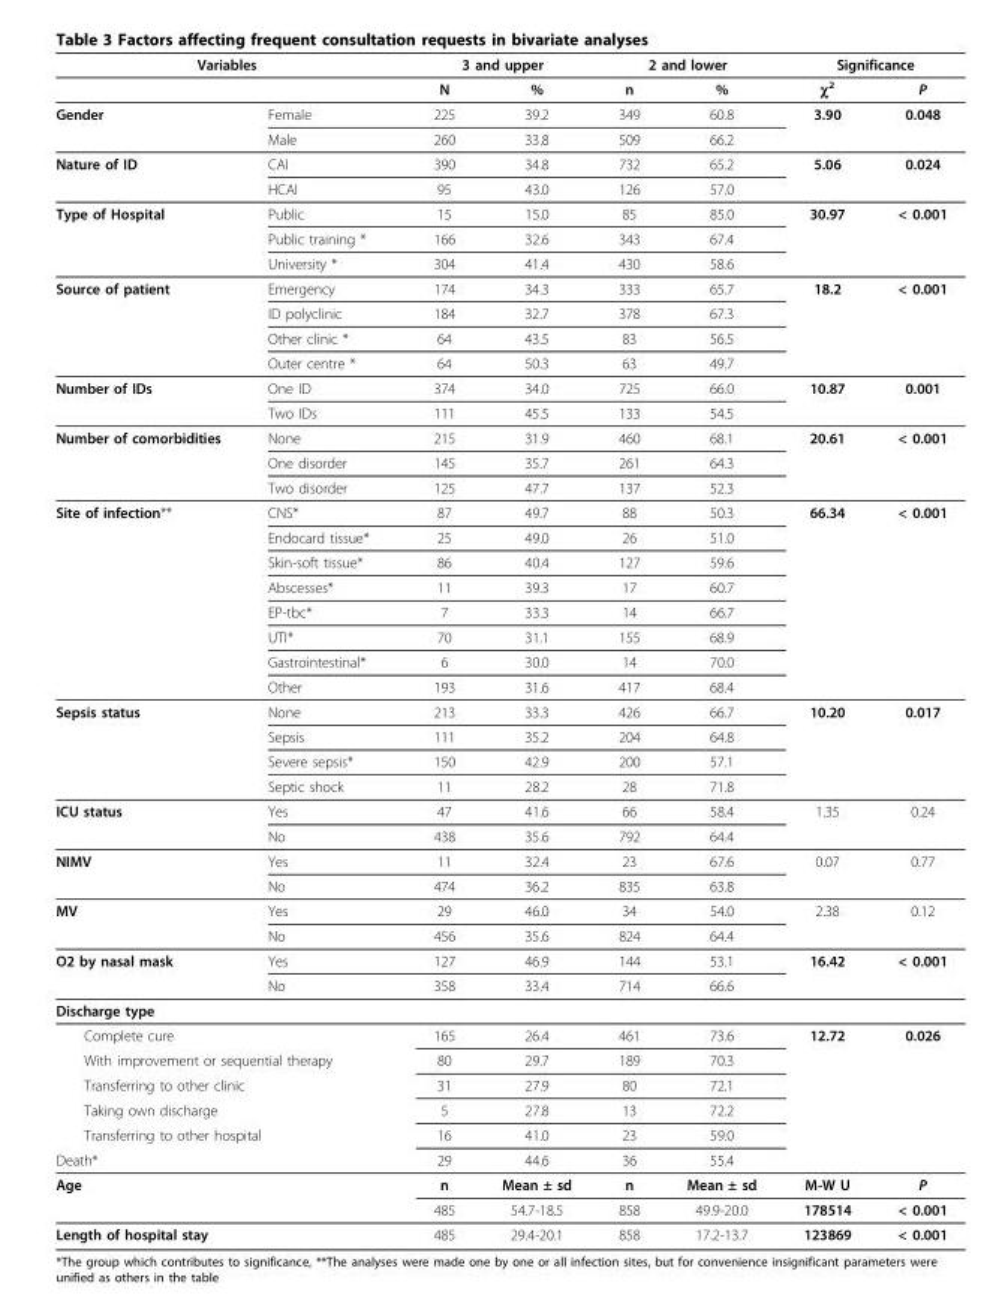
<table><thead><tr><td rowspan="2">Variables</td><td rowspan="2"></td><td colspan="2">3 and upper</td><td colspan="2">2 and lower</td><td colspan="2">Significance</td></tr><tr><td>N</td><td>%</td><td>n</td><td>%</td><td>χ<sup>2</sup></td><td>P</td></tr></thead><tbody><tr><td rowspan="2">Gender</td><td>Female</td><td>225</td><td>39.2</td><td>349</td><td>60.8</td><td>3.90</td><td>0.048</td></tr><tr><td>Male</td><td>260</td><td>33.8</td><td>509</td><td>66.2</td><td></td><td></td></tr><tr><td rowspan="2">Nature of ID</td><td>CAI</td><td>390</td><td>34.8</td><td>732</td><td>65.2</td><td>5.06</td><td>0.024</td></tr><tr><td>HCAI</td><td>95</td><td>43.0</td><td>126</td><td>57.0</td><td></td><td></td></tr><tr><td rowspan="3">Type of Hospital</td><td>Public</td><td>15</td><td>15.0</td><td>85</td><td>85.0</td><td>30.97</td><td>&lt; 0.001</td></tr><tr><td>Public training *</td><td>166</td><td>32.6</td><td>343</td><td>67.4</td><td></td><td></td></tr><tr><td>University *</td><td>304</td><td>41.4</td><td>430</td><td>58.6</td><td></td><td></td></tr><tr><td rowspan="4">Source of patient</td><td>Emergency</td><td>174</td><td>34.3</td><td>333</td><td>65.7</td><td>18.2</td><td>&lt; 0.001</td></tr><tr><td>ID polyclinic</td><td>184</td><td>32.7</td><td>378</td><td>67.3</td><td></td><td></td></tr><tr><td>Other clinic *</td><td>64</td><td>43.5</td><td>83</td><td>56.5</td><td></td><td></td></tr><tr><td>Outer centre *</td><td>64</td><td>50.3</td><td>63</td><td>49.7</td><td></td><td></td></tr><tr><td rowspan="2">Number of IDs</td><td>One ID</td><td>374</td><td>34.0</td><td>725</td><td>66.0</td><td>10.87</td><td>0.001</td></tr><tr><td>Two IDs</td><td>111</td><td>45.5</td><td>133</td><td>54.5</td><td></td><td></td></tr><tr><td rowspan="3">Number of comorbidities</td><td>None</td><td>215</td><td>31.9</td><td>460</td><td>68.1</td><td>20.61</td><td>&lt; 0.001</td></tr><tr><td>One disorder</td><td>145</td><td>35.7</td><td>261</td><td>64.3</td><td></td><td></td></tr><tr><td>Two disorder</td><td>125</td><td>47.7</td><td>137</td><td>52.3</td><td></td><td></td></tr><tr><td rowspan="8">Site of infection**</td><td>CNS*</td><td>87</td><td>49.7</td><td>88</td><td>50.3</td><td>66.34</td><td>&lt; 0.001</td></tr><tr><td>Endocard tissue*</td><td>25</td><td>49.0</td><td>26</td><td>51.0</td><td></td><td></td></tr><tr><td>Skin-soft tissue*</td><td>86</td><td>40.4</td><td>127</td><td>59.6</td><td></td><td></td></tr><tr><td>Abscesses*</td><td>11</td><td>39.3</td><td>17</td><td>60.7</td><td></td><td></td></tr><tr><td>EP-tbc*</td><td>7</td><td>33.3</td><td>14</td><td>66.7</td><td></td><td></td></tr><tr><td>UTI*</td><td>70</td><td>31.1</td><td>155</td><td>68.9</td><td></td><td></td></tr><tr><td>Gastrointestinal*</td><td>6</td><td>30.0</td><td>14</td><td>70.0</td><td></td><td></td></tr><tr><td>Other</td><td>193</td><td>31.6</td><td>417</td><td>68.4</td><td></td><td></td></tr><tr><td rowspan="4">Sepsis status</td><td>None</td><td>213</td><td>33.3</td><td>426</td><td>66.7</td><td>10.20</td><td>0.017</td></tr><tr><td>Sepsis</td><td>111</td><td>35.2</td><td>204</td><td>64.8</td><td></td><td></td></tr><tr><td>Severe sepsis*</td><td>150</td><td>42.9</td><td>200</td><td>57.1</td><td></td><td></td></tr><tr><td>Septic shock</td><td>11</td><td>28.2</td><td>28</td><td>71.8</td><td></td><td></td></tr><tr><td rowspan="2">ICU status</td><td>Yes</td><td>47</td><td>41.6</td><td>66</td><td>58.4</td><td>1.35</td><td>0.24</td></tr><tr><td>No</td><td>438</td><td>35.6</td><td>792</td><td>64.4</td><td></td><td></td></tr><tr><td rowspan="2">NIMV</td><td>Yes</td><td>11</td><td>32.4</td><td>23</td><td>67.6</td><td>0.07</td><td>0.77</td></tr><tr><td>No</td><td>474</td><td>36.2</td><td>835</td><td>63.8</td><td></td><td></td></tr><tr><td rowspan="2">MV</td><td>Yes</td><td>29</td><td>46.0</td><td>34</td><td>54.0</td><td>2.38</td><td>0.12</td></tr><tr><td>No</td><td>456</td><td>35.6</td><td>824</td><td>64.4</td><td></td><td></td></tr><tr><td rowspan="2">O2 by nasal mask</td><td>Yes</td><td>127</td><td>46.9</td><td>144</td><td>53.1</td><td>16.42</td><td>&lt; 0.001</td></tr><tr><td>No</td><td>358</td><td>33.4</td><td>714</td><td>66.6</td><td></td><td></td></tr><tr><td colspan="8">Discharge type</td></tr><tr><td colspan="2">Complete cure</td><td>165</td><td>26.4</td><td>461</td><td>73.6</td><td>12.72</td><td>0.026</td></tr><tr><td colspan="2">With improvement or sequential therapy</td><td>80</td><td>29.7</td><td>189</td><td>70.3</td><td></td><td></td></tr><tr><td colspan="2">Transferring to other clinic</td><td>31</td><td>27.9</td><td>80</td><td>72.1</td><td></td><td></td></tr><tr><td colspan="2">Taking own discharge</td><td>5</td><td>27.8</td><td>13</td><td>72.2</td><td></td><td></td></tr><tr><td colspan="2">Transferring to other hospital</td><td>16</td><td>41.0</td><td>23</td><td>59.0</td><td></td><td></td></tr><tr><td colspan="2">Death*</td><td>29</td><td>44.6</td><td>36</td><td>55.4</td><td></td><td></td></tr><tr><td colspan="2">Age</td><td>n</td><td>Mean ± sd</td><td>n</td><td>Mean ± sd</td><td>M-W U</td><td>P</td></tr><tr><td></td><td></td><td>485</td><td>54.7-18.5</td><td>858</td><td>49.9-20.0</td><td>178514</td><td>&lt; 0.001</td></tr><tr><td colspan="2">Length of hospital stay</td><td>485</td><td>29.4-20.1</td><td>858</td><td>17.2-13.7</td><td>123869</td><td>&lt; 0.001</td></tr></tbody></table>